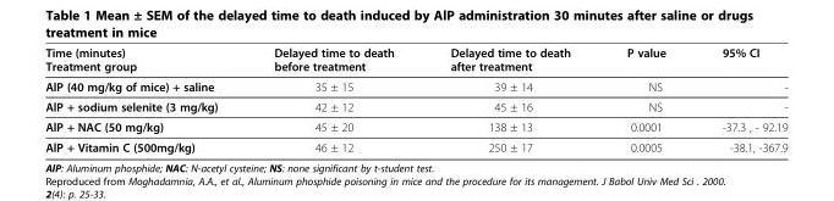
<table><thead><tr><td>Time (minutes) Treatment group</td><td>Delayed time to death before treatment</td><td>Delayed time to death after treatment</td><td>P value</td><td>95% CI</td></tr></thead><tbody><tr><td>AlP (40 mg/kg of mice) + saline</td><td>35 ± 15</td><td>39 ± 14</td><td>NS</td><td>-</td></tr><tr><td>AlP + sodium selenite (3 mg/kg)</td><td>42 ± 12</td><td>45 ± 16</td><td>NS</td><td>-</td></tr><tr><td>AlP + NAC (50 mg/kg)</td><td>45 ± 20</td><td>138 ± 13</td><td>0.0001</td><td>-37.3 , - 92.19</td></tr><tr><td>AlP + Vitamin C (500mg/kg)</td><td>46 ± 12</td><td>250 ± 17</td><td>0.0005</td><td>-38.1, -367.9</td></tr></tbody></table>